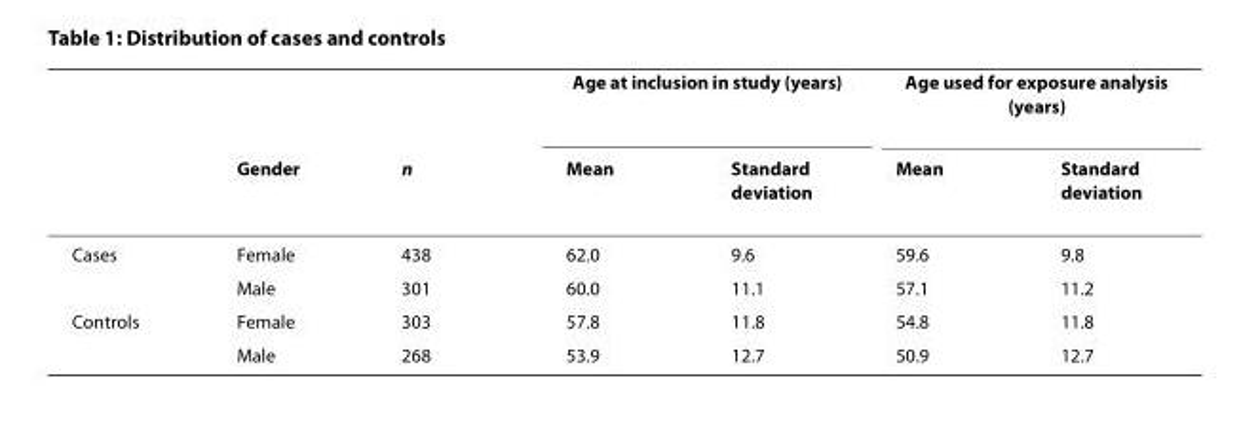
<table><thead><tr><td rowspan="2"></td><td rowspan="2">Gender</td><td rowspan="2">n</td><td colspan="2">Age at inclusion in study (years)</td><td colspan="2">Age used for exposure analysis (years)</td></tr><tr><td>Mean</td><td>Standard deviation</td><td>Mean</td><td>Standard deviation</td></tr></thead><tbody><tr><td rowspan="2">Cases</td><td>Female</td><td>438</td><td>62.0</td><td>9.6</td><td>59.6</td><td>9.8</td></tr><tr><td>Male</td><td>301</td><td>60.0</td><td>11.1</td><td>57.1</td><td>11.2</td></tr><tr><td rowspan="2">Controls</td><td>Female</td><td>303</td><td>57.8</td><td>11.8</td><td>54.8</td><td>11.8</td></tr><tr><td>Male</td><td>268</td><td>53.9</td><td>12.7</td><td>50.9</td><td>12.7</td></tr></tbody></table>